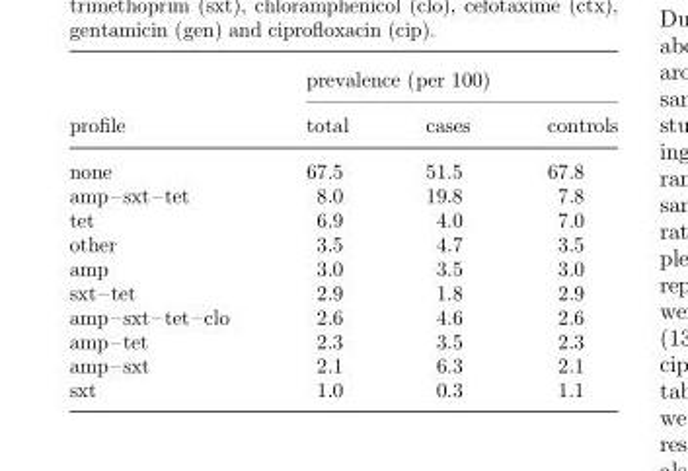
<table><thead><tr><td rowspan="2">profile</td><td colspan="3">prevalence (per 100)</td></tr><tr><td>total</td><td>cases</td><td>controls</td></tr></thead><tbody><tr><td>none</td><td>67.5</td><td>51.5</td><td>67.8</td></tr><tr><td>amp–sxt–tet</td><td>8.0</td><td>19.8</td><td>7.8</td></tr><tr><td>tet</td><td>6.9</td><td>4.0</td><td>7.0</td></tr><tr><td>other</td><td>3.5</td><td>4.7</td><td>3.5</td></tr><tr><td>amp</td><td>3.0</td><td>3.5</td><td>3.0</td></tr><tr><td>sxt–tet</td><td>2.9</td><td>1.8</td><td>2.9</td></tr><tr><td>amp–sxt–tet–clo</td><td>2.6</td><td>4.6</td><td>2.6</td></tr><tr><td>amp–tet</td><td>2.3</td><td>3.5</td><td>2.3</td></tr><tr><td>amp–sxt</td><td>2.1</td><td>6.3</td><td>2.1</td></tr><tr><td>sxt</td><td>1.0</td><td>0.3</td><td>1.1</td></tr></tbody></table>